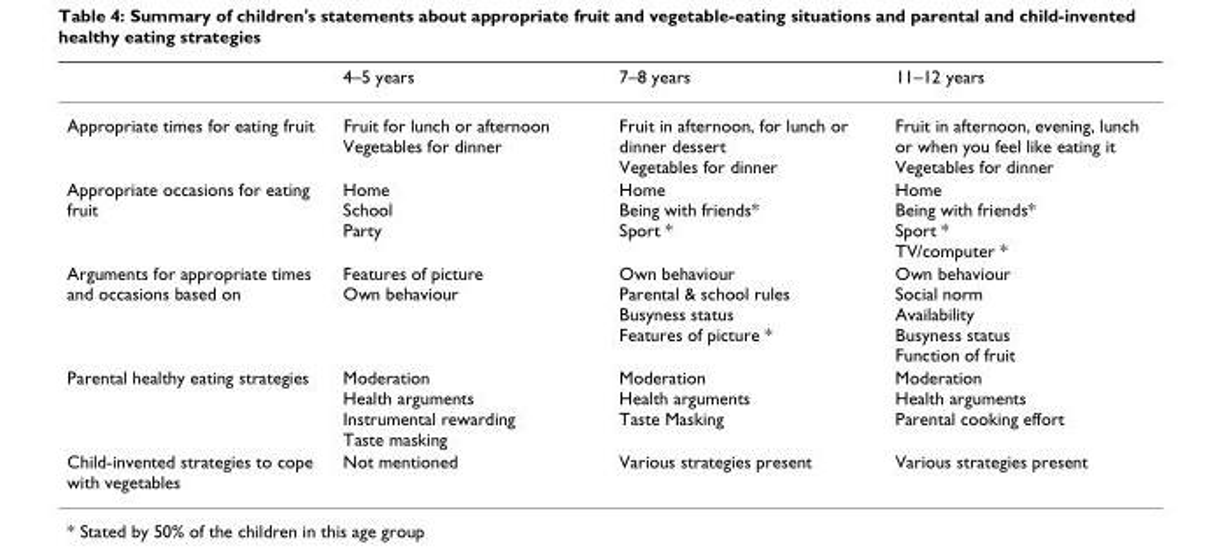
<table><thead><tr><td></td><td>4–5 years</td><td>7–8 years</td><td>11–12 years</td></tr></thead><tbody><tr><td>Appropriate times for eating fruit</td><td>Fruit for lunch or afternoon Vegetables for dinner</td><td>Fruit in afternoon, for lunch or dinner dessert Vegetables for dinner</td><td>Fruit in afternoon, evening, lunch or when you feel like eating it Vegetables for dinner</td></tr><tr><td>Appropriate occasions for eating fruit</td><td>Home School Party</td><td>Home Being with friends* Sport *</td><td>Home Being with friends* Sport * TV/computer *</td></tr><tr><td>Arguments for appropriate times and occasions based on</td><td>Features of picture Own behaviour</td><td>Own behaviour Parental &amp; school rules Busyness status Features of picture *</td><td>Own behaviour Social norm Availability Busyness status Function of fruit</td></tr><tr><td>Parental healthy eating strategies</td><td>Moderation Health arguments Instrumental rewarding Taste masking</td><td>Moderation Health arguments Taste Masking</td><td>Moderation Health arguments Parental cooking effort</td></tr><tr><td>Child-invented strategies to cope with vegetables</td><td>Not mentioned</td><td>Various strategies present</td><td>Various strategies present</td></tr></tbody></table>